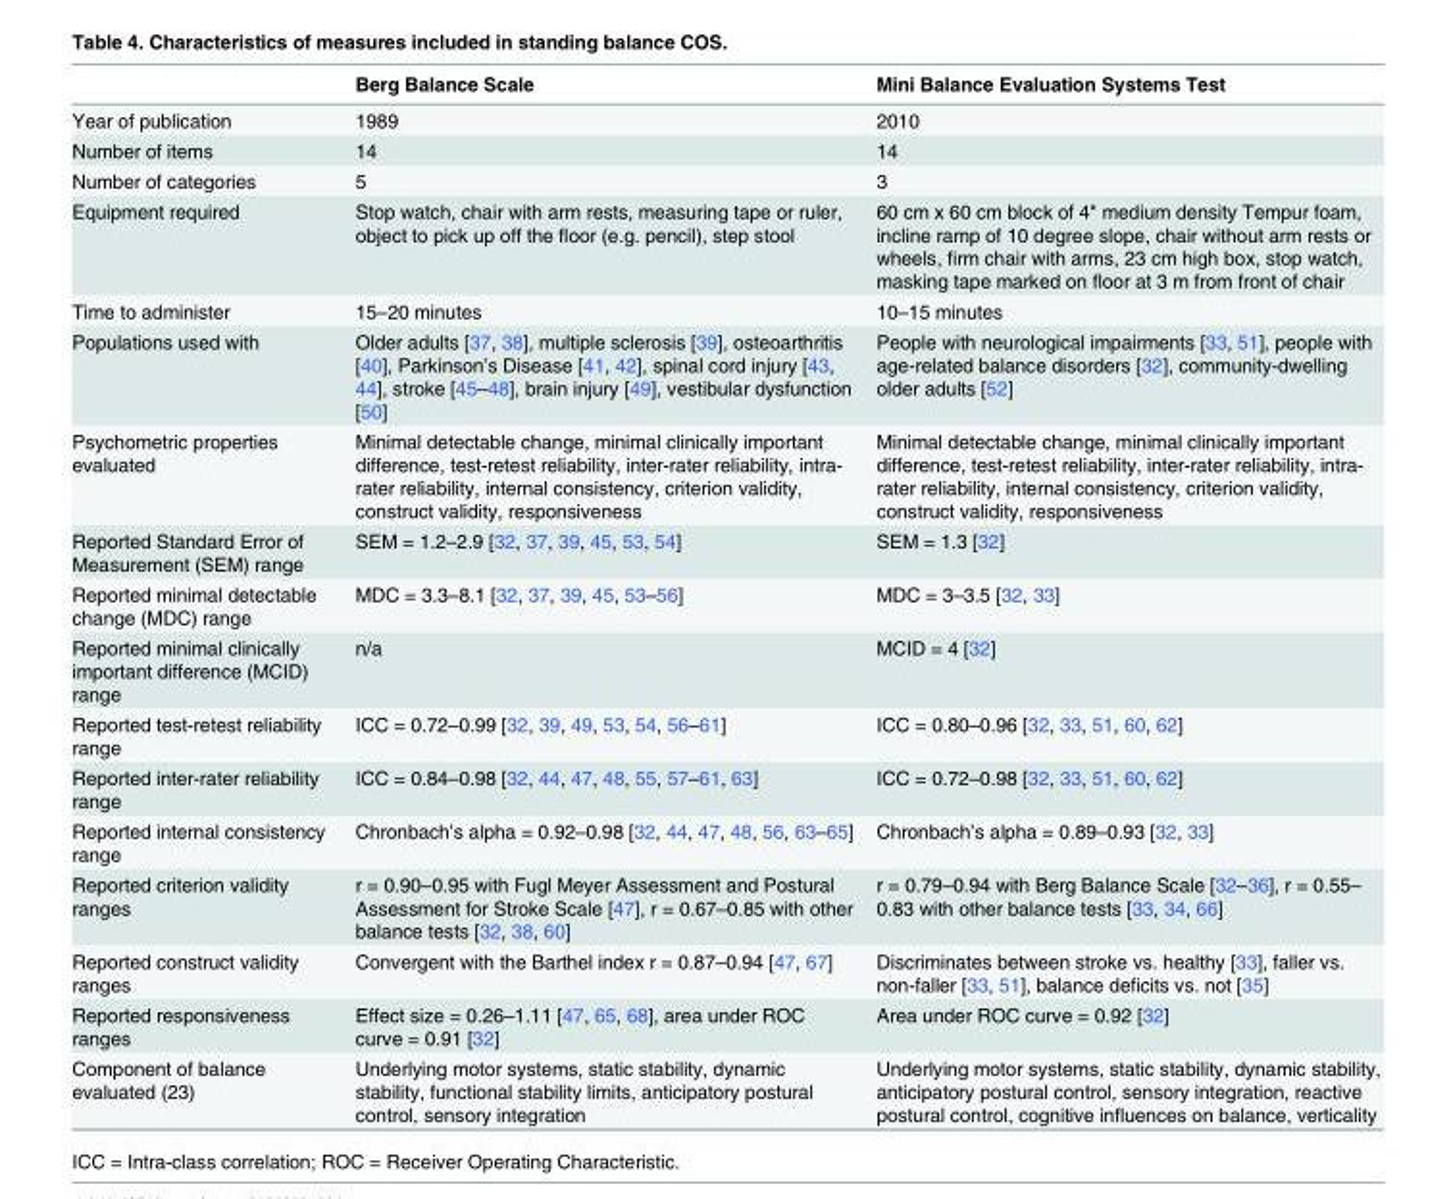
<table><thead><tr><td></td><td>Berg Balance Scale</td><td>Mini Balance Evaluation Systems Test</td></tr></thead><tbody><tr><td>Year of publication</td><td>1989</td><td>2010</td></tr><tr><td>Number of items</td><td>14</td><td>14</td></tr><tr><td>Number of categories</td><td>5</td><td>3</td></tr><tr><td>Equipment required</td><td>Stop watch, chair with arm rests, measuring tape or ruler, object to pick up off the floor (e.g. pencil), step stool</td><td>60 cm x 60 cm block of 4&quot; medium density Tempur foam, incline ramp of 10 degree slope, chair without arm rests or wheels, firm chair with arms, 23 cm high box, stop watch, masking tape marked on floor at 3 m from front of chair</td></tr><tr><td>Time to administer</td><td>15–20 minutes</td><td>10–15 minutes</td></tr><tr><td>Populations used with</td><td>Older adults [37, 38], multiple sclerosis [39], osteoarthritis [40], Parkinson’s Disease [41, 42], spinal cord injury [43, 44], stroke [45–48], brain injury [49], vestibular dysfunction [50]</td><td>People with neurological impairments [33, 51], people with age-related balance disorders [32], community-dwelling older adults [52]</td></tr><tr><td>Psychometric properties evaluated</td><td>Minimal detectable change, minimal clinically important difference, test-retest reliability, inter-rater reliability, intra- rater reliability, internal consistency, criterion validity, construct validity, responsiveness</td><td>Minimal detectable change, minimal clinically important difference, test-retest reliability, inter-rater reliability, intra- rater reliability, internal consistency, criterion validity, construct validity, responsiveness</td></tr><tr><td>Reported Standard Error of Measurement (SEM) range</td><td>SEM = 1.2–2.9 [32, 37, 39, 45, 53, 54]</td><td>SEM = 1.3 [32]</td></tr><tr><td>Reported minimal detectable change (MDC) range</td><td>MDC = 3.3–8.1 [32, 37, 39, 45, 53–56]</td><td>MDC = 3–3.5 [32, 33]</td></tr><tr><td>Reported minimal clinically important difference (MCID) range</td><td>n/a</td><td>MCID = 4 [32]</td></tr><tr><td>Reported test-retest reliability range</td><td>ICC = 0.72–0.99 [32, 39, 49, 53, 54, 56–61]</td><td>ICC = 0.80–0.96 [32, 33, 51, 60, 62]</td></tr><tr><td>Reported inter-rater reliability range</td><td>ICC = 0.84–0.98 [32, 44, 47, 48, 55, 57–61, 63]</td><td>ICC = 0.72–0.98 [32, 33, 51, 60, 62]</td></tr><tr><td>Reported internal consistency range</td><td>Chronbach’s alpha = 0.92–0.98 [32, 44, 47, 48, 56, 63–65]</td><td>Chronbach’s alpha = 0.89–0.93 [32, 33]</td></tr><tr><td>Reported criterion validity ranges</td><td>r = 0.90–0.95 with Fugl Meyer Assessment and Postural Assessment for Stroke Scale [47], r = 0.67–0.85 with other balance tests [32, 38, 60]</td><td>r = 0.79–0.94 with Berg Balance Scale [32–36], r = 0.55– 0.83 with other balance tests [33, 34, 66]</td></tr><tr><td>Reported construct validity ranges</td><td>Convergent with the Barthel index r = 0.87–0.94 [47, 67]</td><td>Discriminates between stroke vs. healthy [33], faller vs. non-faller [33, 51], balance deficits vs. not [35]</td></tr><tr><td>Reported responsiveness ranges</td><td>Effect size = 0.26–1.11 [47, 65, 68], area under ROC curve = 0.91 [32]</td><td>Area under ROC curve = 0.92 [32]</td></tr><tr><td>Component of balance evaluated (23)</td><td>Underlying motor systems, static stability, dynamic stability, functional stability limits, anticipatory postural control, sensory integration</td><td>Underlying motor systems, static stability, dynamic stability, anticipatory postural control, sensory integration, reactive postural control, cognitive influences on balance, verticality</td></tr></tbody></table>